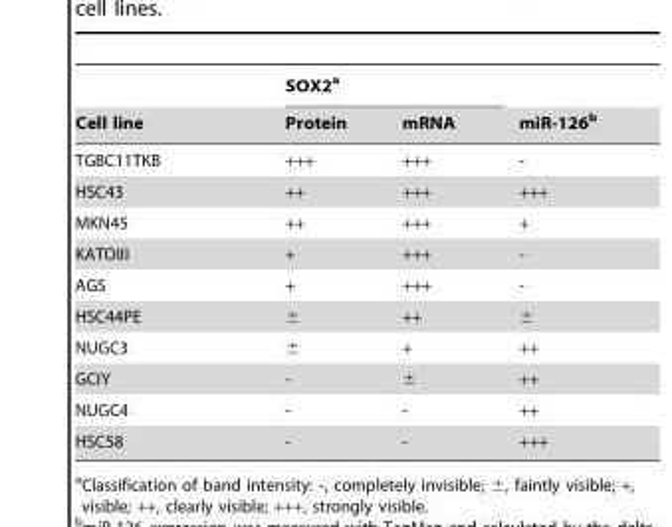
<table><thead><tr><td rowspan="2">Cell line</td><td colspan="2">SOX2<sup>a</sup></td><td rowspan="2">miR-126<sup>b</sup></td></tr><tr><td>Protein</td><td>mRNA</td></tr></thead><tbody><tr><td>TGBC11TKB</td><td>+++</td><td>+++</td><td>-</td></tr><tr><td>HSC43</td><td>++</td><td>+++</td><td>+++</td></tr><tr><td>MKN45</td><td>++</td><td>+++</td><td>+</td></tr><tr><td>KATOIII</td><td>+</td><td>+++</td><td>-</td></tr><tr><td>AGS</td><td>+</td><td>+++</td><td>-</td></tr><tr><td>HSC44PE</td><td>±</td><td>++</td><td>±</td></tr><tr><td>NUGC3</td><td>±</td><td>+</td><td>++</td></tr><tr><td>GCIY</td><td>-</td><td>±</td><td>++</td></tr><tr><td>NUGC4</td><td>-</td><td>-</td><td>++</td></tr><tr><td>HSC58</td><td>-</td><td>-</td><td>+++</td></tr></tbody></table>